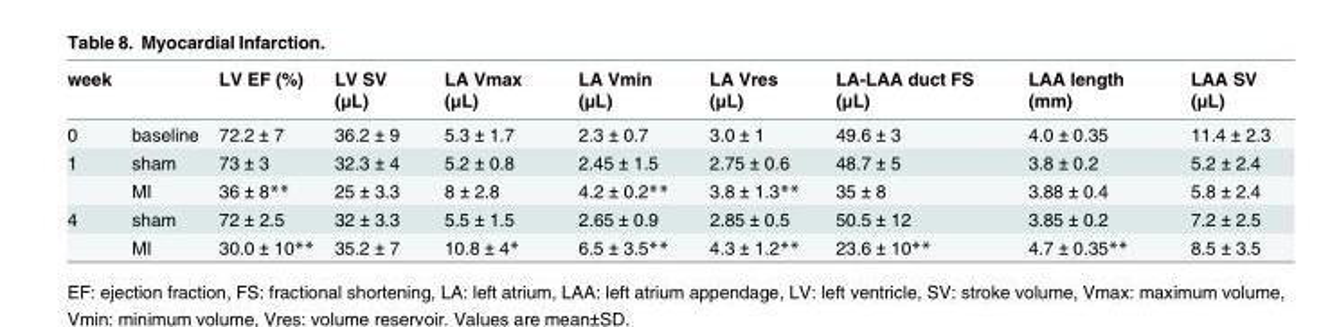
<table><thead><tr><td>week</td><td></td><td>LV EF (%)</td><td>LV SV (μL)</td><td>LA Vmax (μL)</td><td>LA Vmin (μL)</td><td>LA Vres (μL)</td><td>LA-LAA duct FS (μL)</td><td>LAA length (mm)</td><td>LAA SV (μL)</td></tr></thead><tbody><tr><td>0</td><td>baseline</td><td>72.2 ± 7</td><td>36.2 ± 9</td><td>5.3 ± 1.7</td><td>2.3 ± 0.7</td><td>3.0 ± 1</td><td>49.6 ± 3</td><td>4.0 ± 0.35</td><td>11.4 ± 2.3</td></tr><tr><td rowspan="2">1</td><td>sham</td><td>73 ± 3</td><td>32.3 ± 4</td><td>5.2 ± 0.8</td><td>2.45 ± 1.5</td><td>2.75 ± 0.6</td><td>48.7 ± 5</td><td>3.8 ± 0.2</td><td>5.2 ± 2.4</td></tr><tr><td>MI</td><td>36 ± 8**</td><td>25 ± 3.3</td><td>8 ± 2.8</td><td>4.2 ± 0.2**</td><td>3.8 ± 1.3**</td><td>35 ± 8</td><td>3.88 ± 0.4</td><td>5.8 ± 2.4</td></tr><tr><td rowspan="2">4</td><td>sham</td><td>72 ± 2.5</td><td>32 ± 3.3</td><td>5.5 ± 1.5</td><td>2.65 ± 0.9</td><td>2.85 ± 0.5</td><td>50.5 ± 12</td><td>3.85 ± 0.2</td><td>7.2 ± 2.5</td></tr><tr><td>MI</td><td>30.0 ± 10**</td><td>35.2 ± 7</td><td>10.8 ± 4*</td><td>6.5 ± 3.5**</td><td>4.3 ± 1.2**</td><td>23.6 ± 10**</td><td>4.7 ± 0.35**</td><td>8.5 ± 3.5</td></tr></tbody></table>